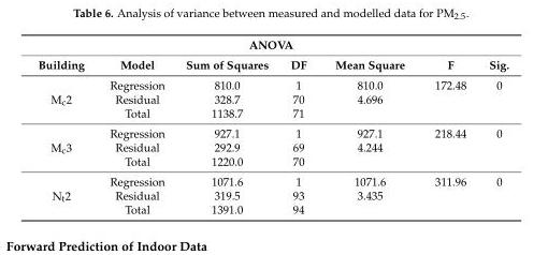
<table><thead><tr><td colspan="7">ANOVA</td></tr><tr><td>Building</td><td>Model</td><td>Sum of Squares</td><td>DF</td><td>Mean Square</td><td>F</td><td>Sig.</td></tr></thead><tbody><tr><td rowspan="3">M<sub>c</sub>2</td><td>Regression</td><td>810.0</td><td>1</td><td>810.0</td><td>172.48</td><td>0</td></tr><tr><td>Residual</td><td>328.7</td><td>70</td><td>4.696</td><td></td><td></td></tr><tr><td>Total</td><td>1138.7</td><td>71</td><td></td><td></td><td></td></tr><tr><td rowspan="3">M<sub>c</sub>3</td><td>Regression</td><td>927.1</td><td>1</td><td>927.1</td><td>218.44</td><td>0</td></tr><tr><td>Residual</td><td>292.9</td><td>69</td><td>4.244</td><td></td><td></td></tr><tr><td>Total</td><td>1220.0</td><td>70</td><td></td><td></td><td></td></tr><tr><td rowspan="3">N<sub>t</sub>2</td><td>Regression</td><td>1071.6</td><td>1</td><td>1071.6</td><td>311.96</td><td>0</td></tr><tr><td>Residual</td><td>319.5</td><td>93</td><td>3.435</td><td></td><td></td></tr><tr><td>Total</td><td>1391.0</td><td>94</td><td></td><td></td><td></td></tr></tbody></table>